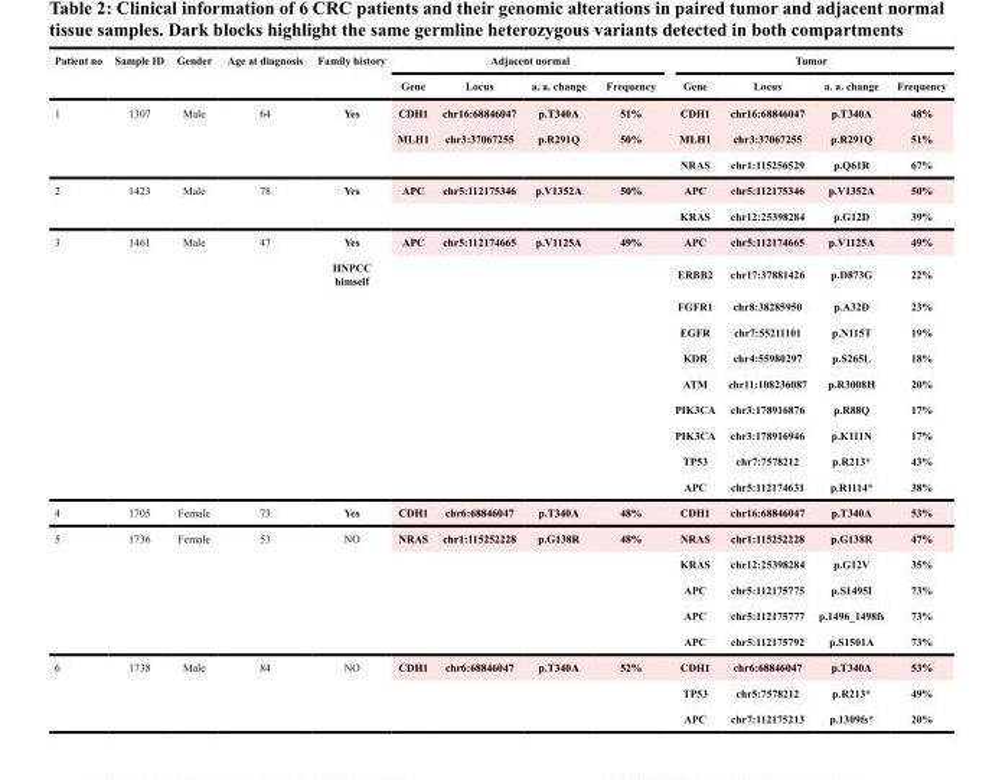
<table><thead><tr><td rowspan="2">Patient no</td><td rowspan="2">Sample ID</td><td rowspan="2">Gender</td><td rowspan="2">Age at diagnosis</td><td rowspan="2">Family history</td><td colspan="4">Adjacent normal</td><td colspan="4">Tumor</td></tr><tr><td>Gene</td><td>Locus</td><td>a. a. change</td><td>Frequency</td><td>Gene</td><td>Locus</td><td>a. a. change</td><td>Frequency</td></tr></thead><tbody><tr><td rowspan="3">1</td><td>1307</td><td>Male</td><td>64</td><td>Yes</td><td>CDH1</td><td>chr16:68846047</td><td>p.T340A</td><td>51%</td><td>CDH1</td><td>chr16:68846047</td><td>p.T340A</td><td>48%</td></tr><tr><td></td><td></td><td></td><td></td><td>MLH1</td><td>chr3:37067255</td><td>p.R291Q</td><td>50%</td><td>MLH1</td><td>chr3:37067255</td><td>p.R291Q</td><td>51%</td></tr><tr><td></td><td></td><td></td><td></td><td></td><td></td><td></td><td></td><td>NRAS</td><td>chr1:115256529</td><td>p.Q61R</td><td>67%</td></tr><tr><td rowspan="2">2</td><td>1423</td><td>Male</td><td>78</td><td>Yes</td><td>APC</td><td>chr5:112175346</td><td>p.V1352A</td><td>50%</td><td>APC</td><td>chr5:112175346</td><td>p.V1352A</td><td>50%</td></tr><tr><td></td><td></td><td></td><td></td><td></td><td></td><td></td><td></td><td>KRAS</td><td>chr12:25398284</td><td>p.G12D</td><td>39%</td></tr><tr><td rowspan="10">3</td><td>1461</td><td>Male</td><td>47</td><td>Yes</td><td>APC</td><td>chr5:112174665</td><td>p.V1125A</td><td>49%</td><td>APC</td><td>chr5:112174665</td><td>p.V1125A</td><td>49%</td></tr><tr><td></td><td></td><td></td><td>HNPCC himself</td><td></td><td></td><td></td><td></td><td>ERBB2</td><td>chr17:37881426</td><td>p.D873G</td><td>22%</td></tr><tr><td></td><td></td><td></td><td></td><td></td><td></td><td></td><td></td><td>FGFR1</td><td>chr8:38285950</td><td>p.A32D</td><td>23%</td></tr><tr><td></td><td></td><td></td><td></td><td></td><td></td><td></td><td></td><td>EGFR</td><td>chr7:55211101</td><td>p.N115T</td><td>19%</td></tr><tr><td></td><td></td><td></td><td></td><td></td><td></td><td></td><td></td><td>KDR</td><td>chr4:55980297</td><td>p.S265L</td><td>18%</td></tr><tr><td></td><td></td><td></td><td></td><td></td><td></td><td></td><td></td><td>ATM</td><td>chr11:108236087</td><td>p.R3008H</td><td>20%</td></tr><tr><td></td><td></td><td></td><td></td><td></td><td></td><td></td><td></td><td>PIK3CA</td><td>chr3:178916876</td><td>p.R88Q</td><td>17%</td></tr><tr><td></td><td></td><td></td><td></td><td></td><td></td><td></td><td></td><td>PIK3CA</td><td>chr3:178916946</td><td>p.K111N</td><td>17%</td></tr><tr><td></td><td></td><td></td><td></td><td></td><td></td><td></td><td></td><td>TP53</td><td>chr7:7578212</td><td>p.R213*</td><td>43%</td></tr><tr><td></td><td></td><td></td><td></td><td></td><td></td><td></td><td></td><td>APC</td><td>chr5:112174631</td><td>p.R1114*</td><td>38%</td></tr><tr><td>4</td><td>1705</td><td>Female</td><td>73</td><td>Yes</td><td>CDH1</td><td>chr6:68846047</td><td>p.T340A</td><td>48%</td><td>CDH1</td><td>chr16:68846047</td><td>p.T340A</td><td>53%</td></tr><tr><td rowspan="5">5</td><td>1736</td><td>Female</td><td>53</td><td>NO</td><td>NRAS</td><td>chr1:115252228</td><td>p.G138R</td><td>48%</td><td>NRAS</td><td>chr1:115252228</td><td>p.G138R</td><td>47%</td></tr><tr><td></td><td></td><td></td><td></td><td></td><td></td><td></td><td></td><td>KRAS</td><td>chr12:25398284</td><td>p.G12V</td><td>35%</td></tr><tr><td></td><td></td><td></td><td></td><td></td><td></td><td></td><td></td><td>APC</td><td>chr5:112175775</td><td>p.S1495I</td><td>73%</td></tr><tr><td></td><td></td><td></td><td></td><td></td><td></td><td></td><td></td><td>APC</td><td>chr5:112175777</td><td>p.1496_1498fs</td><td>73%</td></tr><tr><td></td><td></td><td></td><td></td><td></td><td></td><td></td><td></td><td>APC</td><td>chr5:112175792</td><td>p.S1501A</td><td>73%</td></tr><tr><td rowspan="3">6</td><td>1738</td><td>Male</td><td>84</td><td>NO</td><td>CDH1</td><td>chr6:68846047</td><td>p.T340A</td><td>52%</td><td>CDH1</td><td>chr6:68846047</td><td>p.T340A</td><td>53%</td></tr><tr><td></td><td></td><td></td><td></td><td></td><td></td><td></td><td></td><td>TP53</td><td>chr5:7578212</td><td>p.R213*</td><td>49%</td></tr><tr><td></td><td></td><td></td><td></td><td></td><td></td><td></td><td></td><td>APC</td><td>chr7:112175213</td><td>p.1309fs*</td><td>20%</td></tr></tbody></table>